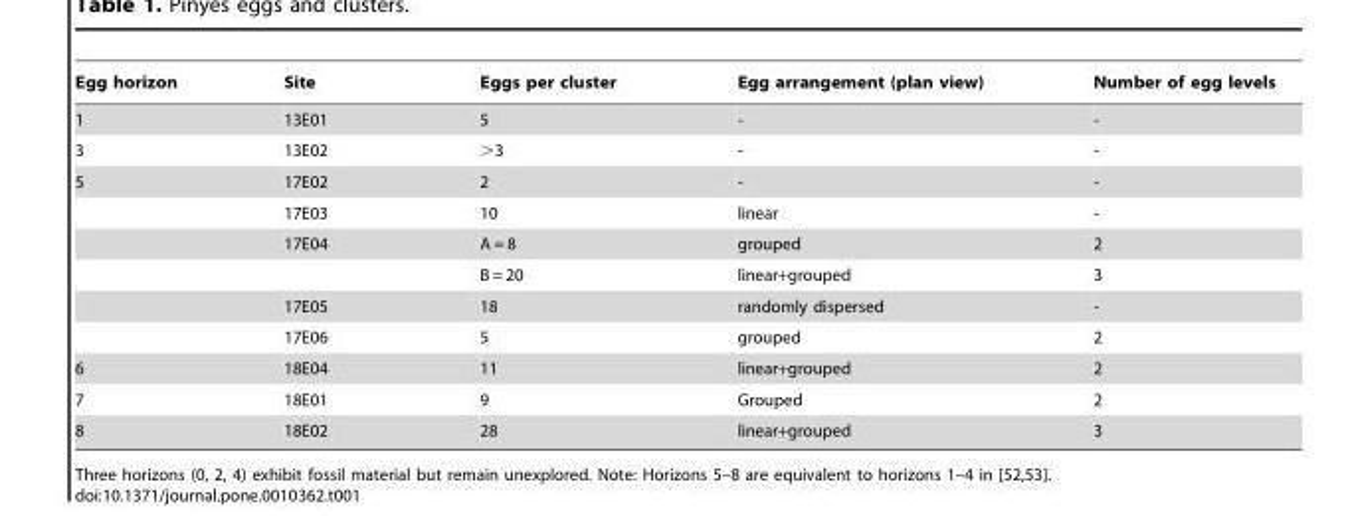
<table><thead><tr><td>Egg horizon</td><td>Site</td><td>Eggs per cluster</td><td>Egg arrangement (plan view)</td><td>Number of egg levels</td></tr></thead><tbody><tr><td>1</td><td>13E01</td><td>5</td><td>-</td><td>-</td></tr><tr><td>3</td><td>13E02</td><td>&gt;3</td><td>-</td><td>-</td></tr><tr><td rowspan="6">5</td><td>17E02</td><td>2</td><td>-</td><td>-</td></tr><tr><td>17E03</td><td>10</td><td>linear</td><td>-</td></tr><tr><td>17E04</td><td>A = 8</td><td>grouped</td><td>2</td></tr><tr><td></td><td>B = 20</td><td>linear+grouped</td><td>3</td></tr><tr><td>17E05</td><td>18</td><td>randomly dispersed</td><td>-</td></tr><tr><td>17E06</td><td>5</td><td>grouped</td><td>2</td></tr><tr><td>6</td><td>18E04</td><td>11</td><td>linear+grouped</td><td>2</td></tr><tr><td>7</td><td>18E01</td><td>9</td><td>Grouped</td><td>2</td></tr><tr><td>8</td><td>18E02</td><td>28</td><td>linear+grouped</td><td>3</td></tr></tbody></table>